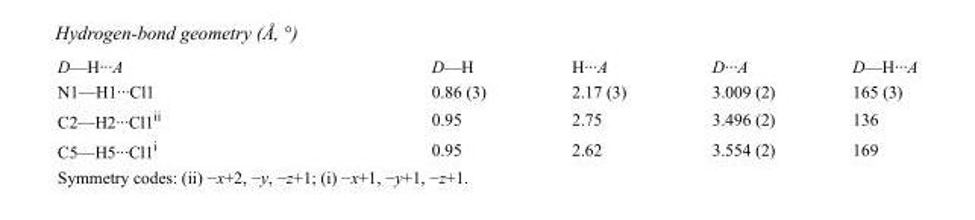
<table><tbody><tr><td>D—H···A</td><td>D—H</td><td>H···A</td><td>D···A</td><td>D—H···A</td></tr><tr><td>N1—H1···Cl1</td><td>0.86 (3)</td><td>2.17 (3)</td><td>3.009 (2)</td><td>165 (3)</td></tr><tr><td>C2—H2···Cl1<sup>ii</sup></td><td>0.95</td><td>2.75</td><td>3.496 (2)</td><td>136</td></tr><tr><td>C5—H5···Cl1<sup>i</sup></td><td>0.95</td><td>2.62</td><td>3.554 (2)</td><td>169</td></tr></tbody></table>